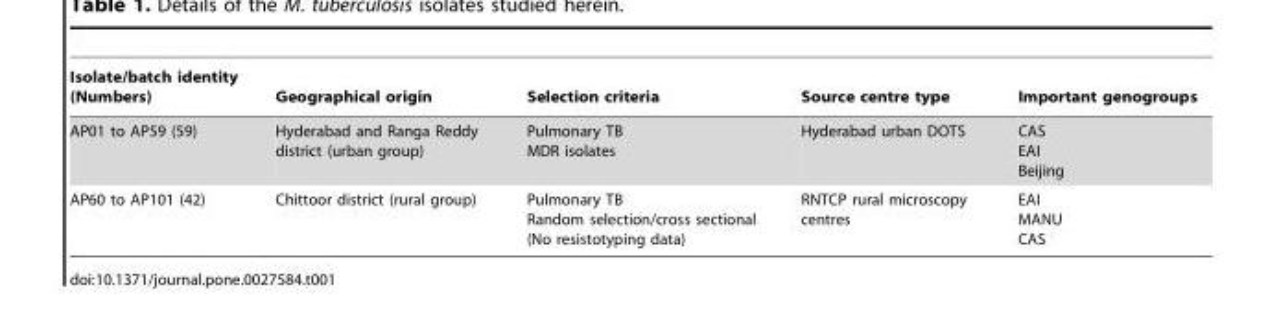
<table><thead><tr><td>Isolate/batch identity (Numbers)</td><td>Geographical origin</td><td>Selection criteria</td><td>Source centre type</td><td>Important genogroups</td></tr></thead><tbody><tr><td>AP01 to AP59 (59)</td><td>Hyderabad and Ranga Reddy district (urban group)</td><td>Pulmonary TB MDR isolates</td><td>Hyderabad urban DOTS</td><td>CAS EAI Beijing</td></tr><tr><td>AP60 to AP101 (42)</td><td>Chittoor district (rural group)</td><td>Pulmonary TB Random selection/cross sectional (No resistotyping data)</td><td>RNTCP rural microscopy centres</td><td>EAI MANU CAS</td></tr></tbody></table>